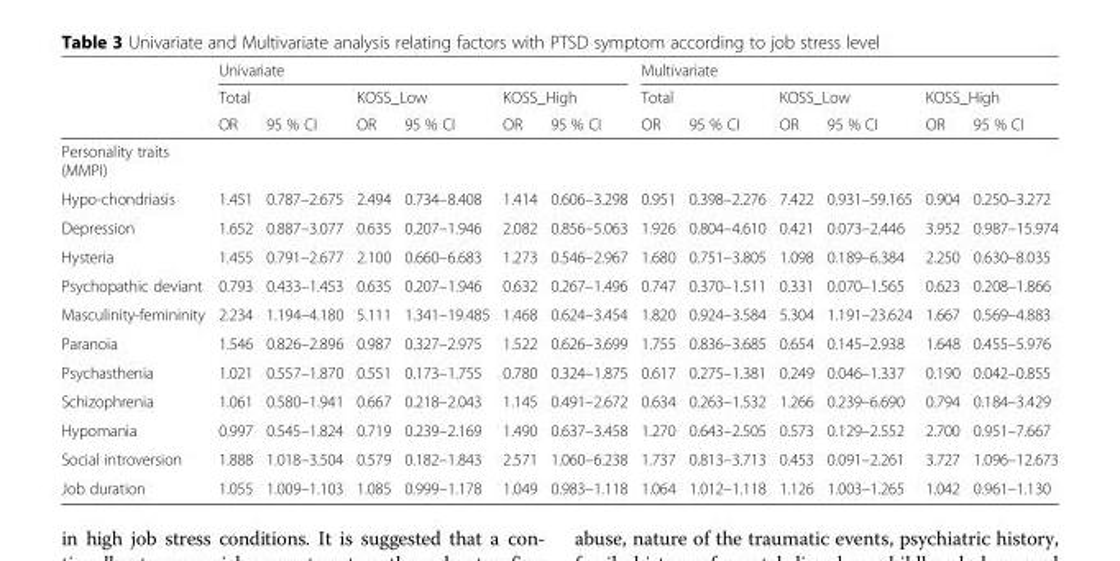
<table><thead><tr><td rowspan="3"></td><td colspan="6">Univariate</td><td colspan="6">Multivariate</td></tr><tr><td colspan="2">Total</td><td colspan="2">KOSS_Low</td><td colspan="2">KOSS_High</td><td colspan="2">Total</td><td colspan="2">KOSS_Low</td><td colspan="2">KOSS_High</td></tr><tr><td>OR</td><td>95 % CI</td><td>OR</td><td>95 % CI</td><td>OR</td><td>95 % CI</td><td>OR</td><td>95 % CI</td><td>OR</td><td>95 % CI</td><td>OR</td><td>95 % CI</td></tr></thead><tbody><tr><td colspan="13">Personality traits (MMPI)</td></tr><tr><td>Hypo-chondriasis</td><td>1.451</td><td>0.787–2.675</td><td>2.494</td><td>0.734–8.408</td><td>1.414</td><td>0.606–3.298</td><td>0.951</td><td>0.398–2.276</td><td>7.422</td><td>0.931–59.165</td><td>0.904</td><td>0.250–3.272</td></tr><tr><td>Depression</td><td>1.652</td><td>0.887–3.077</td><td>0.635</td><td>0.207–1.946</td><td>2.082</td><td>0.856–5.063</td><td>1.926</td><td>0.804–4.610</td><td>0.421</td><td>0.073–2.446</td><td>3.952</td><td>0.987–15.974</td></tr><tr><td>Hysteria</td><td>1.455</td><td>0.791–2.677</td><td>2.100</td><td>0.660–6.683</td><td>1.273</td><td>0.546–2.967</td><td>1.680</td><td>0.751–3.805</td><td>1.098</td><td>0.189–6.384</td><td>2.250</td><td>0.630–8.035</td></tr><tr><td>Psychopathic deviant</td><td>0.793</td><td>0.433–1.453</td><td>0.635</td><td>0.207–1.946</td><td>0.632</td><td>0.267–1.496</td><td>0.747</td><td>0.370–1.511</td><td>0.331</td><td>0.070–1.565</td><td>0.623</td><td>0.208–1.866</td></tr><tr><td>Masculinity-femininity</td><td>2.234</td><td>1.194–4.180</td><td>5.111</td><td>1.341–19.485</td><td>1.468</td><td>0.624–3.454</td><td>1.820</td><td>0.924–3.584</td><td>5.304</td><td>1.191–23.624</td><td>1.667</td><td>0.569–4.883</td></tr><tr><td>Paranoia</td><td>1.546</td><td>0.826–2.896</td><td>0.987</td><td>0.327–2.975</td><td>1.522</td><td>0.626–3.699</td><td>1.755</td><td>0.836–3.685</td><td>0.654</td><td>0.145–2.938</td><td>1.648</td><td>0.455–5.976</td></tr><tr><td>Psychasthenia</td><td>1.021</td><td>0.557–1.870</td><td>0.551</td><td>0.173–1.755</td><td>0.780</td><td>0.324–1.875</td><td>0.617</td><td>0.275–1.381</td><td>0.249</td><td>0.046–1.337</td><td>0.190</td><td>0.042–0.855</td></tr><tr><td>Schizophrenia</td><td>1.061</td><td>0.580–1.941</td><td>0.667</td><td>0.218–2.043</td><td>1.145</td><td>0.491–2.672</td><td>0.634</td><td>0.263–1.532</td><td>1.266</td><td>0.239–6.690</td><td>0.794</td><td>0.184–3.429</td></tr><tr><td>Hypomania</td><td>0.997</td><td>0.545–1.824</td><td>0.719</td><td>0.239–2.169</td><td>1.490</td><td>0.637–3.458</td><td>1.270</td><td>0.643–2.505</td><td>0.573</td><td>0.129–2.552</td><td>2.700</td><td>0.951–7.667</td></tr><tr><td>Social introversion</td><td>1.888</td><td>1.018–3.504</td><td>0.579</td><td>0.182–1.843</td><td>2.571</td><td>1.060–6.238</td><td>1.737</td><td>0.813–3.713</td><td>0.453</td><td>0.091–2.261</td><td>3.727</td><td>1.096–12.673</td></tr><tr><td>Job duration</td><td>1.055</td><td>1.009–1.103</td><td>1.085</td><td>0.999–1.178</td><td>1.049</td><td>0.983–1.118</td><td>1.064</td><td>1.012–1.118</td><td>1.126</td><td>1.003–1.265</td><td>1.042</td><td>0.961–1.130</td></tr></tbody></table>